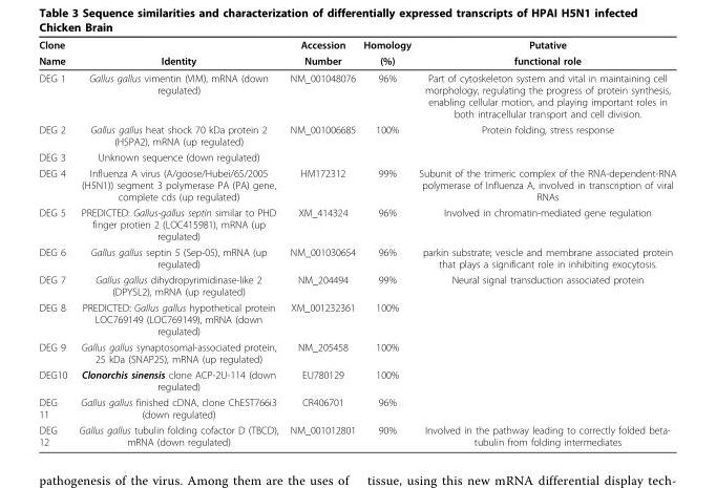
<table><thead><tr><td colspan="2">Clone</td><td rowspan="2">Accession Number</td><td rowspan="2">Homology (%)</td><td rowspan="2">Putative functional role</td></tr><tr><td>Name</td><td>Identity</td></tr></thead><tbody><tr><td>DEG 1</td><td>Gallus gallus vimentin (VIM), mRNA (down regulated)</td><td>NM_001048076</td><td>96%</td><td>Part of cytoskeleton system and vital in maintaining cell morphology, regulating the progress of protein synthesis, enabling cellular motion, and playing important roles in both intracellular transport and cell division.</td></tr><tr><td>DEG 2</td><td>Gallus gallus heat shock 70 kDa protein 2 (HSPA2), mRNA (up regulated)</td><td>NM_001006685</td><td>100%</td><td>Protein folding, stress response</td></tr><tr><td>DEG 3</td><td>Unknown sequence (down regulated)</td><td></td><td></td><td></td></tr><tr><td>DEG 4</td><td>Influenza A virus (A/goose/Hubei/65/2005 (H5N1)) segment 3 polymerase PA (PA) gene, complete cds (up regulated)</td><td>HM172312</td><td>99%</td><td>Subunit of the trimeric complex of the RNA-dependent-RNA polymerase of Influenza A, involved in transcription of viral RNAs</td></tr><tr><td>DEG 5</td><td>PREDICTED: Gallus-gallus septin similar to PHD finger protien 2 (LOC415981), mRNA (up regulated)</td><td>XM_414324</td><td>96%</td><td>Involved in chromatin-mediated gene regulation</td></tr><tr><td>DEG 6</td><td>Gallus gallus septin 5 (Sep-05), mRNA (up regulated)</td><td>NM_001030654</td><td>96%</td><td>parkin substrate; vesicle and membrane associated protein that plays a significant role in inhibiting exocytosis.</td></tr><tr><td>DEG 7</td><td>Gallus gallus dihydropyrimidinase-like 2 (DPYSL2), mRNA (up regulated)</td><td>NM_204494</td><td>99%</td><td>Neural signal transduction associated protein</td></tr><tr><td>DEG 8</td><td>PREDICTED: Gallus gallus hypothetical protein LOC769149 (LOC769149), mRNA (down regulated)</td><td>XM_001232361</td><td>100%</td><td></td></tr><tr><td>DEG 9</td><td>Gallus gallus synaptosomal-associated protein, 25 kDa (SNAP25), mRNA (up regulated)</td><td>NM_205458</td><td>100%</td><td></td></tr><tr><td>DEG10</td><td>Clonorchis sinensis clone ACP-2U-114 (down regulated)</td><td>EU780129</td><td>100%</td><td></td></tr><tr><td>DEG 11</td><td>Gallus gallus finished cDNA, clone ChEST766i3 (down regulated)</td><td>CR406701</td><td>96%</td><td></td></tr><tr><td>DEG 12</td><td>Gallus gallus tubulin folding cofactor D (TBCD), mRNA (down regulated)</td><td>NM_001012801</td><td>90%</td><td>Involved in the pathway leading to correctly folded beta- tubulin from folding intermediates</td></tr></tbody></table>